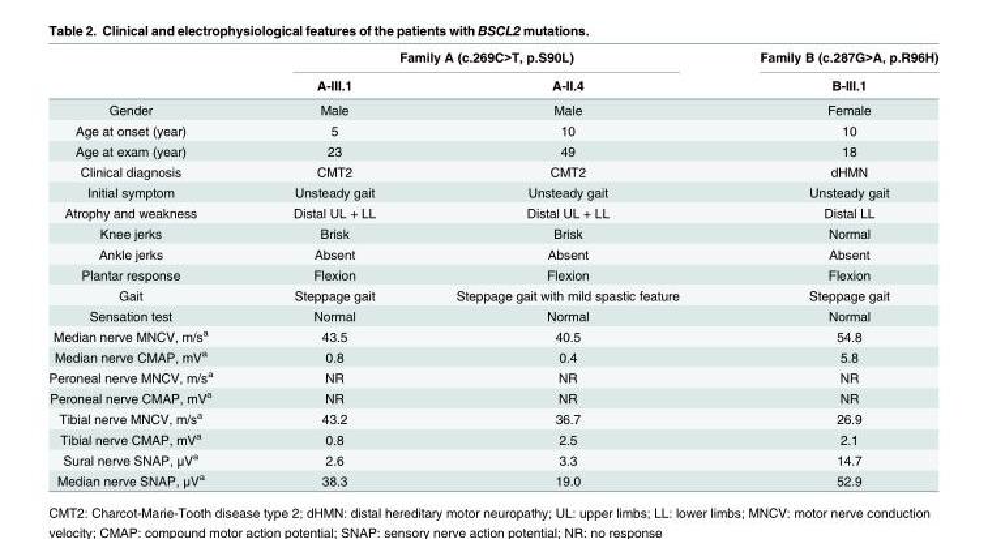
<table><thead><tr><td rowspan="2"></td><td colspan="2">Family A (c.269C&gt;T, p.S90L)</td><td rowspan="2">Family B (c.287G&gt;A, p.R96H) B-III.1</td></tr><tr><td>A-III.1</td><td>A-II.4</td></tr></thead><tbody><tr><td>Gender</td><td>Male</td><td>Male</td><td>Female</td></tr><tr><td>Age at onset (year)</td><td>5</td><td>10</td><td>10</td></tr><tr><td>Age at exam (year)</td><td>23</td><td>49</td><td>18</td></tr><tr><td>Clinical diagnosis</td><td>CMT2</td><td>CMT2</td><td>dHMN</td></tr><tr><td>Initial symptom</td><td>Unsteady gait</td><td>Unsteady gait</td><td>Unsteady gait</td></tr><tr><td>Atrophy and weakness</td><td>Distal UL + LL</td><td>Distal UL + LL</td><td>Distal LL</td></tr><tr><td>Knee jerks</td><td>Brisk</td><td>Brisk</td><td>Normal</td></tr><tr><td>Ankle jerks</td><td>Absent</td><td>Absent</td><td>Absent</td></tr><tr><td>Plantar response</td><td>Flexion</td><td>Flexion</td><td>Flexion</td></tr><tr><td>Gait</td><td>Steppage gait</td><td>Steppage gait with mild spastic feature</td><td>Steppage gait</td></tr><tr><td>Sensation test</td><td>Normal</td><td>Normal</td><td>Normal</td></tr><tr><td>Median nerve MNCV, m/s<sup>a</sup></td><td>43.5</td><td>40.5</td><td>54.8</td></tr><tr><td>Median nerve CMAP, mV<sup>a</sup></td><td>0.8</td><td>0.4</td><td>5.8</td></tr><tr><td>Peroneal nerve MNCV, m/s<sup>a</sup></td><td>NR</td><td>NR</td><td>NR</td></tr><tr><td>Peroneal nerve CMAP, mV<sup>a</sup></td><td>NR</td><td>NR</td><td>NR</td></tr><tr><td>Tibial nerve MNCV, m/s<sup>a</sup></td><td>43.2</td><td>36.7</td><td>26.9</td></tr><tr><td>Tibial nerve CMAP, mV<sup>a</sup></td><td>0.8</td><td>2.5</td><td>2.1</td></tr><tr><td>Sural nerve SNAP, μV<sup>a</sup></td><td>2.6</td><td>3.3</td><td>14.7</td></tr><tr><td>Median nerve SNAP, μV<sup>a</sup></td><td>38.3</td><td>19.0</td><td>52.9</td></tr></tbody></table>